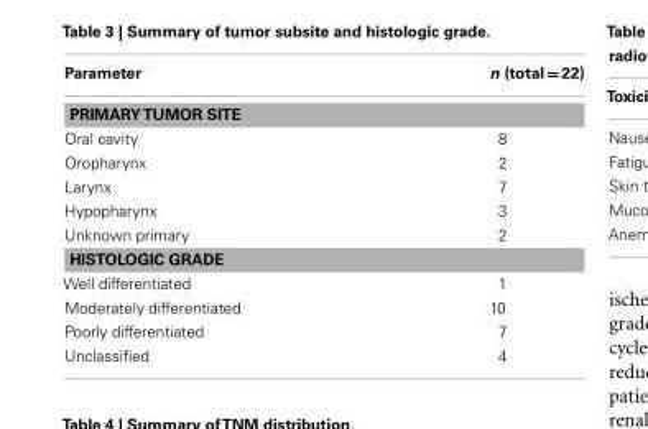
<table><thead><tr><td>Parameter</td><td>n (total = 22)</td></tr></thead><tbody><tr><td colspan="2">PRIMARYTUMOR SITE</td></tr><tr><td>Oral cavity</td><td>8</td></tr><tr><td>Oropharynx</td><td>2</td></tr><tr><td>Larynx</td><td>7</td></tr><tr><td>Hypopharynx</td><td>3</td></tr><tr><td>Unknown primary</td><td>2</td></tr><tr><td colspan="2">HISTOLOGIC GRADE</td></tr><tr><td>Well differentiated</td><td>1</td></tr><tr><td>Moderately differentiated</td><td>10</td></tr><tr><td>Poorly differentiated</td><td>7</td></tr><tr><td>Unclassified</td><td>4</td></tr></tbody></table>